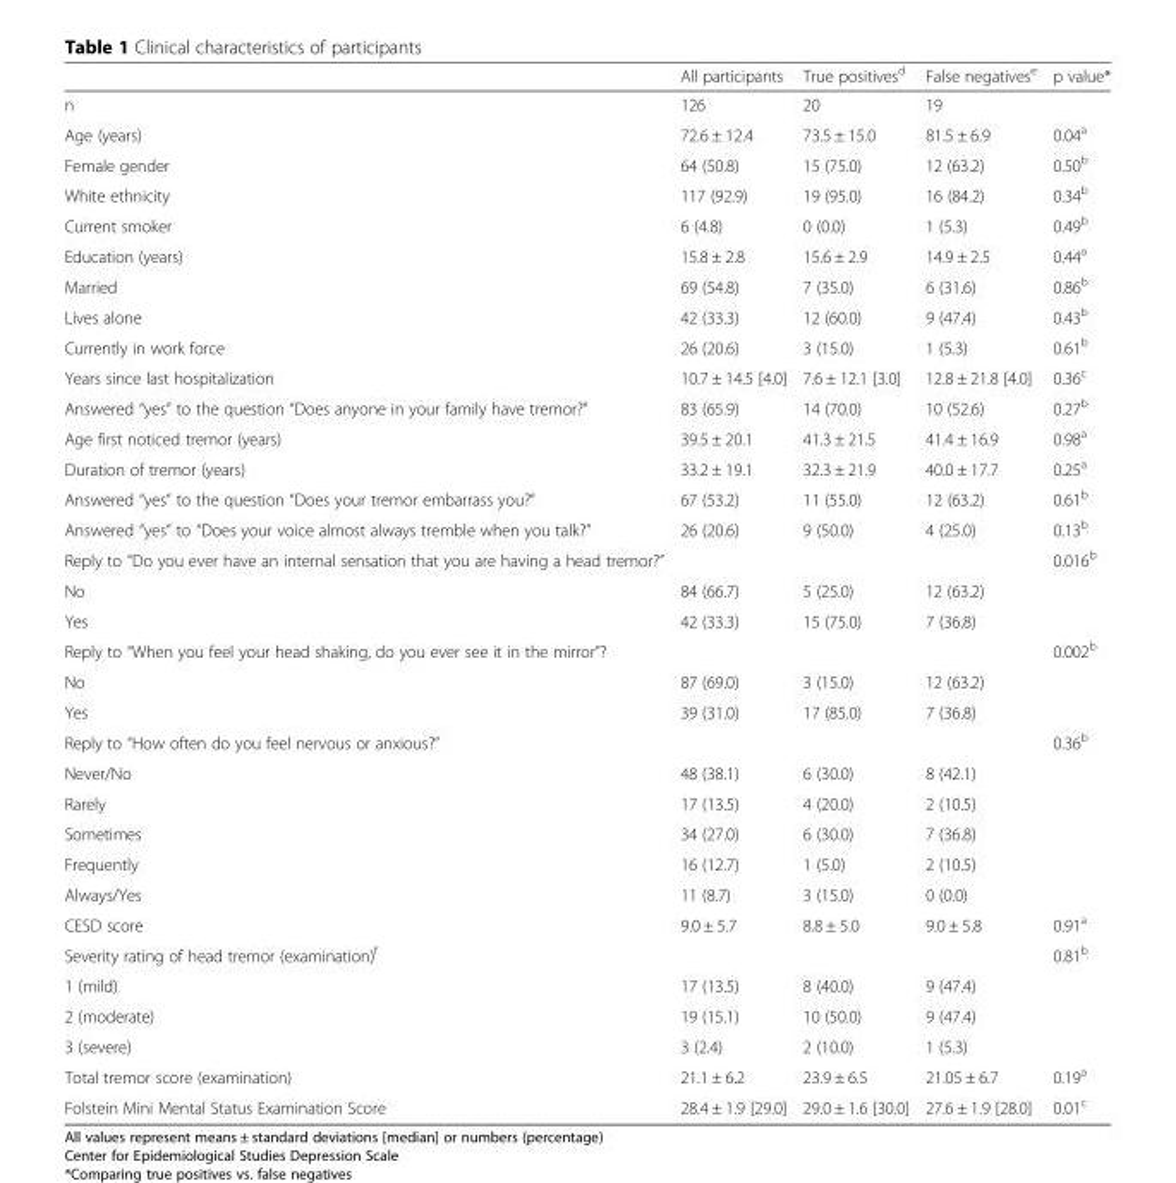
<table><thead><tr><td></td><td>All participants</td><td>True positives<sup>d</sup></td><td>False negatives<sup>e</sup></td><td>p value*</td></tr></thead><tbody><tr><td>n</td><td>126</td><td>20</td><td>19</td><td></td></tr><tr><td>Age (years)</td><td>72.6 ± 12.4</td><td>73.5 ± 15.0</td><td>81.5 ± 6.9</td><td>0.04<sup>a</sup></td></tr><tr><td>Female gender</td><td>64 (50.8)</td><td>15 (75.0)</td><td>12 (63.2)</td><td>0.50<sup>b</sup></td></tr><tr><td>White ethnicity</td><td>117 (92.9)</td><td>19 (95.0)</td><td>16 (84.2)</td><td>0.34<sup>b</sup></td></tr><tr><td>Current smoker</td><td>6 (4.8)</td><td>0 (0.0)</td><td>1 (5.3)</td><td>0.49<sup>b</sup></td></tr><tr><td>Education (years)</td><td>15.8 ± 2.8</td><td>15.6 ± 2.9</td><td>14.9 ± 2.5</td><td>0.44<sup>a</sup></td></tr><tr><td>Married</td><td>69 (54.8)</td><td>7 (35.0)</td><td>6 (31.6)</td><td>0.86<sup>b</sup></td></tr><tr><td>Lives alone</td><td>42 (33.3)</td><td>12 (60.0)</td><td>9 (47.4)</td><td>0.43<sup>b</sup></td></tr><tr><td>Currently in work force</td><td>26 (20.6)</td><td>3 (15.0)</td><td>1 (5.3)</td><td>0.61<sup>b</sup></td></tr><tr><td>Years since last hospitalization</td><td>10.7 ± 14.5 [4.0]</td><td>7.6 ± 12.1 [3.0]</td><td>12.8 ± 21.8 [4.0]</td><td>0.36<sup>c</sup></td></tr><tr><td>Answered “yes” to the question “Does anyone in your family have tremor?”</td><td>83 (65.9)</td><td>14 (70.0)</td><td>10 (52.6)</td><td>0.27<sup>b</sup></td></tr><tr><td>Age first noticed tremor (years)</td><td>39.5 ± 20.1</td><td>41.3 ± 21.5</td><td>41.4 ± 16.9</td><td>0.98<sup>a</sup></td></tr><tr><td>Duration of tremor (years)</td><td>33.2 ± 19.1</td><td>32.3 ± 21.9</td><td>40.0 ± 17.7</td><td>0.25<sup>a</sup></td></tr><tr><td>Answered “yes” to the question “Does your tremor embarrass you?”</td><td>67 (53.2)</td><td>11 (55.0)</td><td>12 (63.2)</td><td>0.61<sup>b</sup></td></tr><tr><td>Answered “yes” to “Does your voice almost always tremble when you talk?”</td><td>26 (20.6)</td><td>9 (50.0)</td><td>4 (25.0)</td><td>0.13<sup>b</sup></td></tr><tr><td colspan="4">Reply to “Do you ever have an internal sensation that you are having a head tremor?”</td><td rowspan="3">0.016<sup>b</sup></td></tr><tr><td>No</td><td>84 (66.7)</td><td>5 (25.0)</td><td>12 (63.2)</td></tr><tr><td>Yes</td><td>42 (33.3)</td><td>15 (75.0)</td><td>7 (36.8)</td></tr><tr><td colspan="4">Reply to “When you feel your head shaking, do you ever see it in the mirror”?</td><td rowspan="3">0.002<sup>b</sup></td></tr><tr><td>No</td><td>87 (69.0)</td><td>3 (15.0)</td><td>12 (63.2)</td></tr><tr><td>Yes</td><td>39 (31.0)</td><td>17 (85.0)</td><td>7 (36.8)</td></tr><tr><td colspan="4">Reply to “How often do you feel nervous or anxious?”</td><td rowspan="6">0.36<sup>b</sup></td></tr><tr><td>Never/No</td><td>48 (38.1)</td><td>6 (30.0)</td><td>8 (42.1)</td></tr><tr><td>Rarely</td><td>17 (13.5)</td><td>4 (20.0)</td><td>2 (10.5)</td></tr><tr><td>Sometimes</td><td>34 (27.0)</td><td>6 (30.0)</td><td>7 (36.8)</td></tr><tr><td>Frequently</td><td>16 (12.7)</td><td>1 (5.0)</td><td>2 (10.5)</td></tr><tr><td>Always/Yes</td><td>11 (8.7)</td><td>3 (15.0)</td><td>0 (0.0)</td></tr><tr><td>CESD score</td><td>9.0 ± 5.7</td><td>8.8 ± 5.0</td><td>9.0 ± 5.8</td><td>0.91<sup>a</sup></td></tr><tr><td colspan="4">Severity rating of head tremor (examination)<sup>f</sup></td><td rowspan="4">0.81<sup>b</sup></td></tr><tr><td>1 (mild)</td><td>17 (13.5)</td><td>8 (40.0)</td><td>9 (47.4)</td></tr><tr><td>2 (moderate)</td><td>19 (15.1)</td><td>10 (50.0)</td><td>9 (47.4)</td></tr><tr><td>3 (severe)</td><td>3 (2.4)</td><td>2 (10.0)</td><td>1 (5.3)</td></tr><tr><td>Total tremor score (examination)</td><td>21.1 ± 6.2</td><td>23.9 ± 6.5</td><td>21.05 ± 6.7</td><td>0.19<sup>a</sup></td></tr><tr><td>Folstein Mini Mental Status Examination Score</td><td>28.4 ± 1.9 [29.0]</td><td>29.0 ± 1.6 [30.0]</td><td>27.6 ± 1.9 [28.0]</td><td>0.01<sup>c</sup></td></tr></tbody></table>